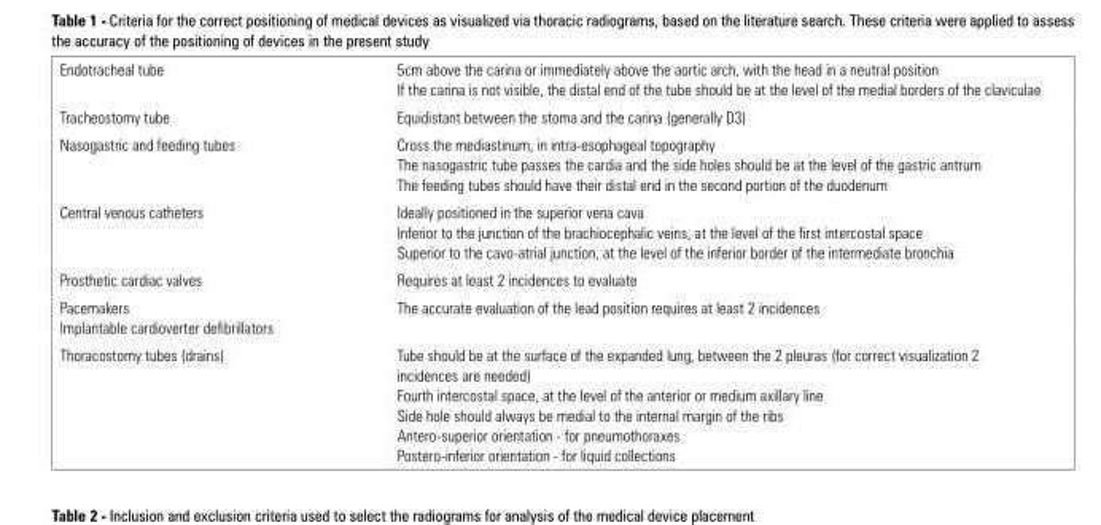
<table><tbody><tr><td>Endotracheal tube</td><td>5cm above the carina or immediately above the aortic arch, with the head in a neutral position If the carina is not visible, the distal end of the tube should be at the level of the medial borders of the claviculae</td></tr><tr><td>Tracheostomy tube</td><td>Equidistant between the stoma and the carina (generally D3)</td></tr><tr><td>Nasogastric and feeding tubes</td><td>Cross the mediastinum, in intra-esophageal topography The nasogastric tube passes the cardia and the side holes should be at the level of the gastric antrum The feeding tubes should have their distal end in the second portion of the duodenum</td></tr><tr><td>Central venous catheters</td><td>Ideally positioned in the superior vena cava Inferior to the junction of the brachiocephalic veins, at the level of the first intercostal space Superior to the cavo-atrial junction, at the level of the inferior border of the intermediate bronchia</td></tr><tr><td>Prosthetic cardiac valves</td><td>Requires at least 2 incidences to evaluate</td></tr><tr><td>Pacemakers Implantable cardioverter defibrillators</td><td>The accurate evaluation of the lead position requires at least 2 incidences</td></tr><tr><td>Thoracostomy tubes (drains)</td><td>Tube should be at the surface of the expanded lung, between the 2 pleuras (for correct visualization 2 incidences are needed) Fourth intercostal space, at the level of the anterior or medium axillary line Side hole should always be medial to the internal margin of the ribs Antero-superior orientation - for pneumothoraxes Postero-inferior orientation - for liquid collections</td></tr></tbody></table>